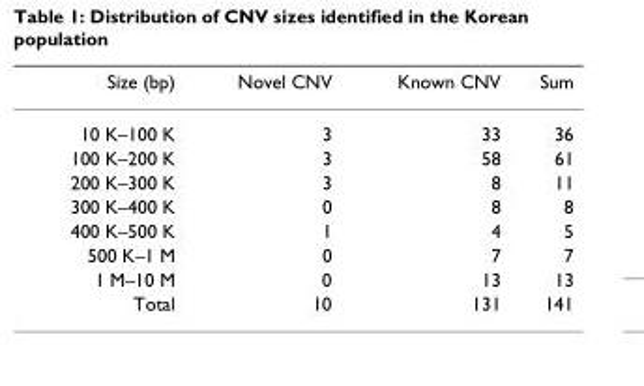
<table><thead><tr><td>Size (bp)</td><td>Novel CNV</td><td>Known CNV</td><td>Sum</td></tr></thead><tbody><tr><td>10 K–100 K</td><td>3</td><td>33</td><td>36</td></tr><tr><td>100 K–200 K</td><td>3</td><td>58</td><td>61</td></tr><tr><td>200 K–300 K</td><td>3</td><td>8</td><td>11</td></tr><tr><td>300 K–400 K</td><td>0</td><td>8</td><td>8</td></tr><tr><td>400 K–500 K</td><td>1</td><td>4</td><td>5</td></tr><tr><td>500 K–1 M</td><td>0</td><td>7</td><td>7</td></tr><tr><td>1 M–10 M</td><td>0</td><td>13</td><td>13</td></tr><tr><td>Total</td><td>10</td><td>131</td><td>141</td></tr></tbody></table>